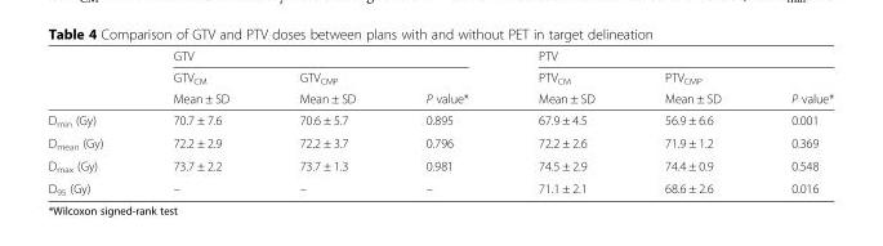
<table><thead><tr><td rowspan="3"></td><td colspan="3">GTV</td><td colspan="3">PTV</td></tr><tr><td rowspan="2">GTV<sub>CM</sub> Mean ± SD</td><td rowspan="2">GTV<sub>CMP</sub> Mean ± SD</td><td rowspan="2">P value*</td><td rowspan="2">PTV<sub>CM</sub> Mean ± SD</td><td rowspan="2">PTV<sub>CMP</sub> Mean ± SD</td><td rowspan="2">P value*</td></tr><tr></tr></thead><tbody><tr><td>D<sub>min</sub> (Gy)</td><td>70.7 ± 7.6</td><td>70.6 ± 5.7</td><td>0.895</td><td>67.9 ± 4.5</td><td>56.9 ± 6.6</td><td>0.001</td></tr><tr><td>D<sub>mean</sub> (Gy)</td><td>72.2 ± 2.9</td><td>72.2 ± 3.7</td><td>0.796</td><td>72.2 ± 2.6</td><td>71.9 ± 1.2</td><td>0.369</td></tr><tr><td>D<sub>max</sub> (Gy)</td><td>73.7 ± 2.2</td><td>73.7 ± 1.3</td><td>0.981</td><td>74.5 ± 2.9</td><td>74.4 ± 0.9</td><td>0.548</td></tr><tr><td>D<sub>95</sub> (Gy)</td><td>–</td><td>–</td><td>–</td><td>71.1 ± 2.1</td><td>68.6 ± 2.6</td><td>0.016</td></tr></tbody></table>